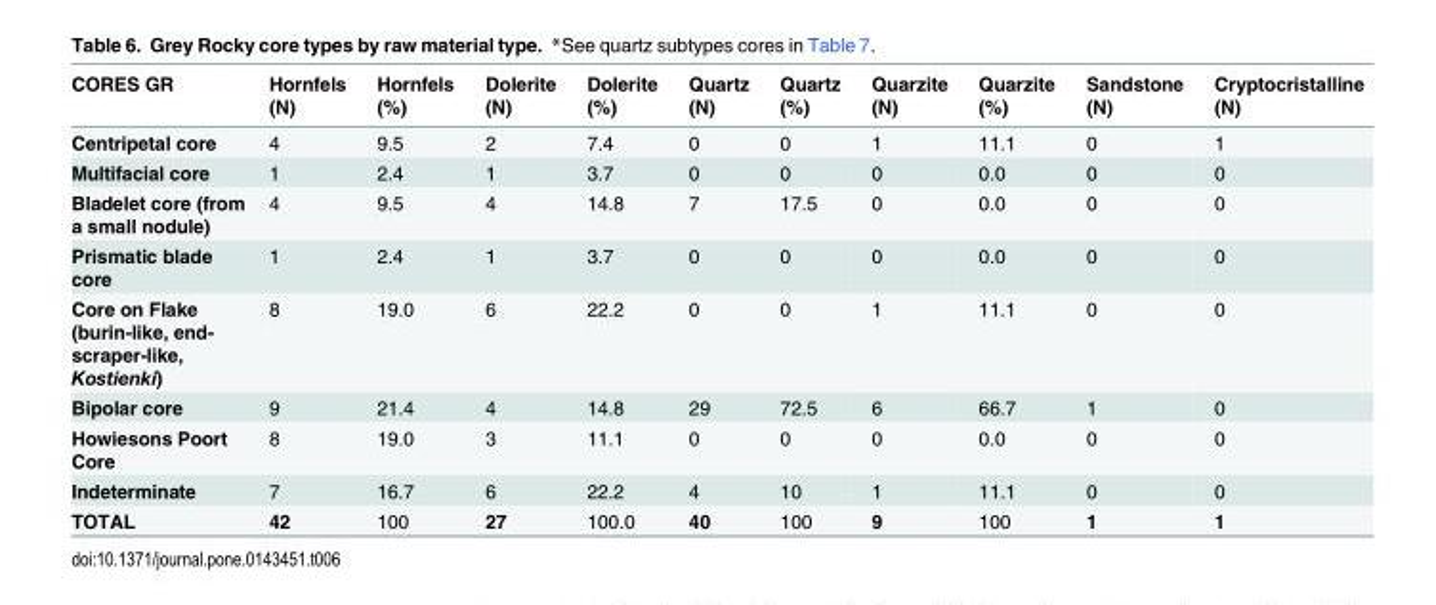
<table><thead><tr><td>CORES GR</td><td>Hornfels (N)</td><td>Hornfels (%)</td><td>Dolerite (N)</td><td>Dolerite (%)</td><td>Quartz (N)</td><td>Quartz (%)</td><td>Quarzite (N)</td><td>Quarzite (%)</td><td>Sandstone (N)</td><td>Cryptocristalline (N)</td></tr></thead><tbody><tr><td>Centripetal core</td><td>4</td><td>9.5</td><td>2</td><td>7.4</td><td>0</td><td>0</td><td>1</td><td>11.1</td><td>0</td><td>1</td></tr><tr><td>Multifacial core</td><td>1</td><td>2.4</td><td>1</td><td>3.7</td><td>0</td><td>0</td><td>0</td><td>0.0</td><td>0</td><td>0</td></tr><tr><td>Bladelet core (from a small nodule)</td><td>4</td><td>9.5</td><td>4</td><td>14.8</td><td>7</td><td>17.5</td><td>0</td><td>0.0</td><td>0</td><td>0</td></tr><tr><td>Prismatic blade core</td><td>1</td><td>2.4</td><td>1</td><td>3.7</td><td>0</td><td>0</td><td>0</td><td>0.0</td><td>0</td><td>0</td></tr><tr><td>Core on Flake (burin-like, end- scraper-like, Kostienki)</td><td>8</td><td>19.0</td><td>6</td><td>22.2</td><td>0</td><td>0</td><td>1</td><td>11.1</td><td>0</td><td>0</td></tr><tr><td>Bipolar core</td><td>9</td><td>21.4</td><td>4</td><td>14.8</td><td>29</td><td>72.5</td><td>6</td><td>66.7</td><td>1</td><td>0</td></tr><tr><td>Howiesons Poort Core</td><td>8</td><td>19.0</td><td>3</td><td>11.1</td><td>0</td><td>0</td><td>0</td><td>0.0</td><td>0</td><td>0</td></tr><tr><td>Indeterminate</td><td>7</td><td>16.7</td><td>6</td><td>22.2</td><td>4</td><td>10</td><td>1</td><td>11.1</td><td>0</td><td>0</td></tr><tr><td>TOTAL</td><td>42</td><td>100</td><td>27</td><td>100.0</td><td>40</td><td>100</td><td>9</td><td>100</td><td>1</td><td>1</td></tr></tbody></table>